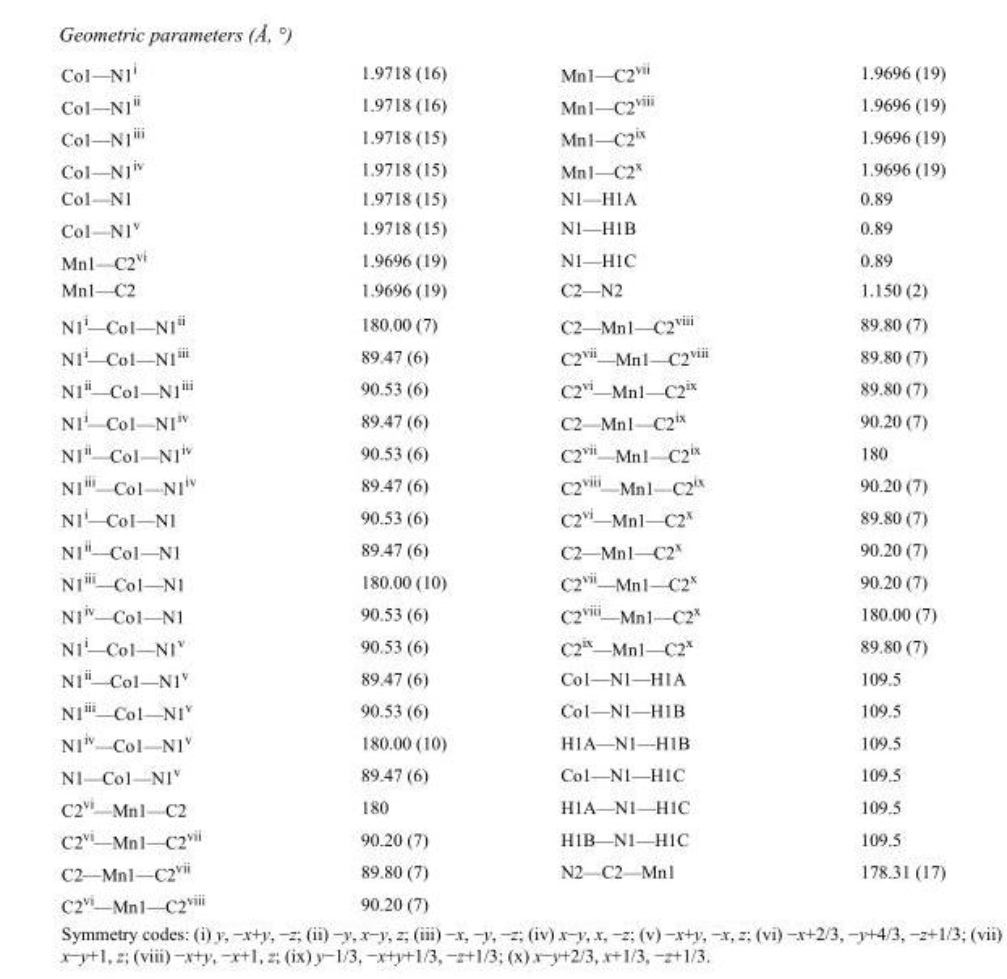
<table><tbody><tr><td>Co1—N1<sup>i</sup></td><td>1.9718 (16)</td><td>Mn1—C2<sup>vii</sup></td><td>1.9696 (19)</td></tr><tr><td>Co1—N1<sup>ii</sup></td><td>1.9718 (16)</td><td>Mn1—C2<sup>viii</sup></td><td>1.9696 (19)</td></tr><tr><td>Co1—N1<sup>iii</sup></td><td>1.9718 (15)</td><td>Mn1—C2<sup>ix</sup></td><td>1.9696 (19)</td></tr><tr><td>Co1—N1<sup>iv</sup></td><td>1.9718 (15)</td><td>Mn1—C2<sup>x</sup></td><td>1.9696 (19)</td></tr><tr><td>Co1—N1</td><td>1.9718 (15)</td><td>N1—H1A</td><td>0.89</td></tr><tr><td>Co1—N1<sup>v</sup></td><td>1.9718 (15)</td><td>N1—H1B</td><td>0.89</td></tr><tr><td>Mn1—C2<sup>vi</sup></td><td>1.9696 (19)</td><td>N1—H1C</td><td>0.89</td></tr><tr><td>Mn1—C2</td><td>1.9696 (19)</td><td>C2—N2</td><td>1.150 (2)</td></tr><tr><td>N1<sup>i</sup>—Co1—N1<sup>ii</sup></td><td>180.00 (7)</td><td>C2—Mn1—C2<sup>viii</sup></td><td>89.80 (7)</td></tr><tr><td>N1<sup>i</sup>—Co1—N1<sup>iii</sup></td><td>89.47 (6)</td><td>C2<sup>vii</sup>—Mn1—C2<sup>viii</sup></td><td>89.80 (7)</td></tr><tr><td>N1<sup>ii</sup>—Co1—N1<sup>iii</sup></td><td>90.53 (6)</td><td>C2<sup>vi</sup>—Mn1—C2<sup>ix</sup></td><td>89.80 (7)</td></tr><tr><td>N1<sup>i</sup>—Co1—N1<sup>iv</sup></td><td>89.47 (6)</td><td>C2—Mn1—C2<sup>ix</sup></td><td>90.20 (7)</td></tr><tr><td>N1<sup>ii</sup>—Co1—N1<sup>iv</sup></td><td>90.53 (6)</td><td>C2<sup>vii</sup>—Mn1—C2<sup>ix</sup></td><td>180</td></tr><tr><td>N1<sup>iii</sup>—Co1—N1<sup>iv</sup></td><td>89.47 (6)</td><td>C2<sup>viii</sup>—Mn1—C2<sup>ix</sup></td><td>90.20 (7)</td></tr><tr><td>N1<sup>i</sup>—Co1—N1</td><td>90.53 (6)</td><td>C2<sup>vi</sup>—Mn1—C2<sup>x</sup></td><td>89.80 (7)</td></tr><tr><td>N1<sup>ii</sup>—Co1—N1</td><td>89.47 (6)</td><td>C2—Mn1—C2<sup>x</sup></td><td>90.20 (7)</td></tr><tr><td>N1<sup>iii</sup>—Co1—N1</td><td>180.00 (10)</td><td>C2<sup>vii</sup>—Mn1—C2<sup>x</sup></td><td>90.20 (7)</td></tr><tr><td>N1<sup>iv</sup>—Co1—N1</td><td>90.53 (6)</td><td>C2<sup>viii</sup>—Mn1—C2<sup>x</sup></td><td>180.00 (7)</td></tr><tr><td>N1<sup>i</sup>—Co1—N1<sup>v</sup></td><td>90.53 (6)</td><td>C2<sup>ix</sup>—Mn1—C2<sup>x</sup></td><td>89.80 (7)</td></tr><tr><td>N1<sup>ii</sup>—Co1—N1<sup>v</sup></td><td>89.47 (6)</td><td>Co1—N1—H1A</td><td>109.5</td></tr><tr><td>N1<sup>iii</sup>—Co1—N1<sup>v</sup></td><td>90.53 (6)</td><td>Co1—N1—H1B</td><td>109.5</td></tr><tr><td>N1<sup>iv</sup>—Co1—N1<sup>v</sup></td><td>180.00 (10)</td><td>H1A—N1—H1B</td><td>109.5</td></tr><tr><td>N1—Co1—N1<sup>v</sup></td><td>89.47 (6)</td><td>Co1—N1—H1C</td><td>109.5</td></tr><tr><td>C2<sup>vi</sup>—Mn1—C2</td><td>180</td><td>H1A—N1—H1C</td><td>109.5</td></tr><tr><td>C2<sup>vi</sup>—Mn1—C2<sup>vii</sup></td><td>90.20 (7)</td><td>H1B—N1—H1C</td><td>109.5</td></tr><tr><td>C2—Mn1—C2<sup>vii</sup></td><td>89.80 (7)</td><td>N2—C2—Mn1</td><td>178.31 (17)</td></tr><tr><td>C2<sup>vi</sup>—Mn1—C2<sup>viii</sup></td><td>90.20 (7)</td><td></td><td></td></tr></tbody></table>